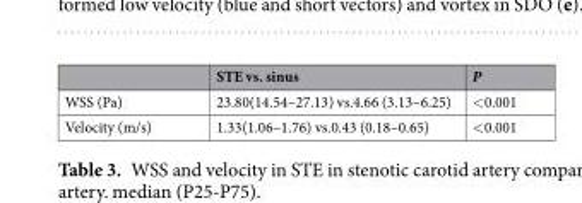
<table><thead><tr><td></td><td>STE vs. sinus</td><td>P</td></tr></thead><tbody><tr><td>WSS (Pa)</td><td>23.80(14.54–27.13) vs.4.66 (3.13–6.25)</td><td>&lt;0.001</td></tr><tr><td>Velocity (m/s)</td><td>1.33(1.06–1.76) vs.0.43 (0.18–0.65)</td><td>&lt;0.001</td></tr></tbody></table>